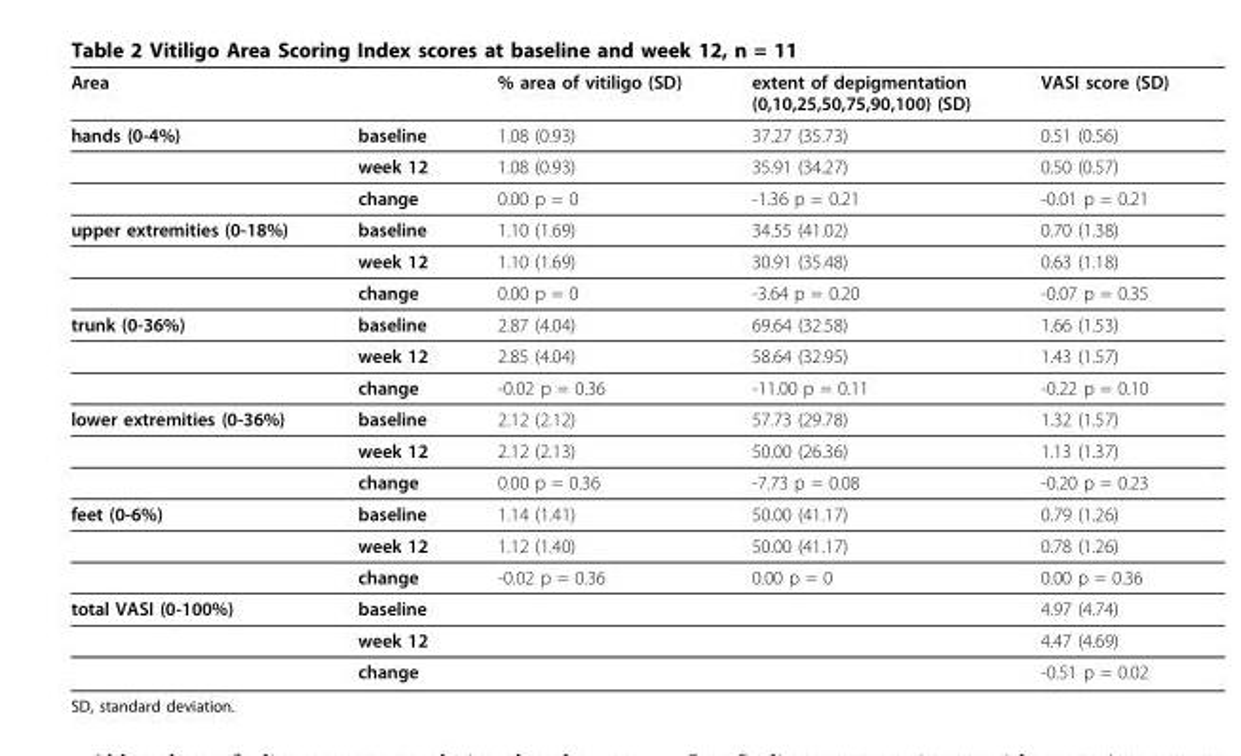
<table><thead><tr><td>Area</td><td></td><td>% area of vitiligo (SD)</td><td>extent of depigmentation (0,10,25,50,75,90,100) (SD)</td><td>VASI score (SD)</td></tr></thead><tbody><tr><td rowspan="3">hands (0-4%)</td><td>baseline</td><td>1.08 (0.93)</td><td>37.27 (35.73)</td><td>0.51 (0.56)</td></tr><tr><td>week 12</td><td>1.08 (0.93)</td><td>35.91 (34.27)</td><td>0.50 (0.57)</td></tr><tr><td>change</td><td>0.00 p = 0</td><td>-1.36 p = 0.21</td><td>-0.01 p = 0.21</td></tr><tr><td rowspan="3">upper extremities (0-18%)</td><td>baseline</td><td>1.10 (1.69)</td><td>34.55 (41.02)</td><td>0.70 (1.38)</td></tr><tr><td>week 12</td><td>1.10 (1.69)</td><td>30.91 (35.48)</td><td>0.63 (1.18)</td></tr><tr><td>change</td><td>0.00 p = 0</td><td>-3.64 p = 0.20</td><td>-0.07 p = 0.35</td></tr><tr><td rowspan="3">trunk (0-36%)</td><td>baseline</td><td>2.87 (4.04)</td><td>69.64 (32.58)</td><td>1.66 (1.53)</td></tr><tr><td>week 12</td><td>2.85 (4.04)</td><td>58.64 (32.95)</td><td>1.43 (1.57)</td></tr><tr><td>change</td><td>-0.02 p = 0.36</td><td>-11.00 p = 0.11</td><td>-0.22 p = 0.10</td></tr><tr><td rowspan="3">lower extremities (0-36%)</td><td>baseline</td><td>2.12 (2.12)</td><td>57.73 (29.78)</td><td>1.32 (1.57)</td></tr><tr><td>week 12</td><td>2.12 (2.13)</td><td>50.00 (26.36)</td><td>1.13 (1.37)</td></tr><tr><td>change</td><td>0.00 p = 0.36</td><td>-7.73 p = 0.08</td><td>-0.20 p = 0.23</td></tr><tr><td rowspan="3">feet (0-6%)</td><td>baseline</td><td>1.14 (1.41)</td><td>50.00 (41.17)</td><td>0.79 (1.26)</td></tr><tr><td>week 12</td><td>1.12 (1.40)</td><td>50.00 (41.17)</td><td>0.78 (1.26)</td></tr><tr><td>change</td><td>-0.02 p = 0.36</td><td>0.00 p = 0</td><td>0.00 p = 0.36</td></tr><tr><td rowspan="3">total VASI (0-100%)</td><td>baseline</td><td></td><td></td><td>4.97 (4.74)</td></tr><tr><td>week 12</td><td></td><td></td><td>4.47 (4.69)</td></tr><tr><td>change</td><td></td><td></td><td>-0.51 p = 0.02</td></tr></tbody></table>